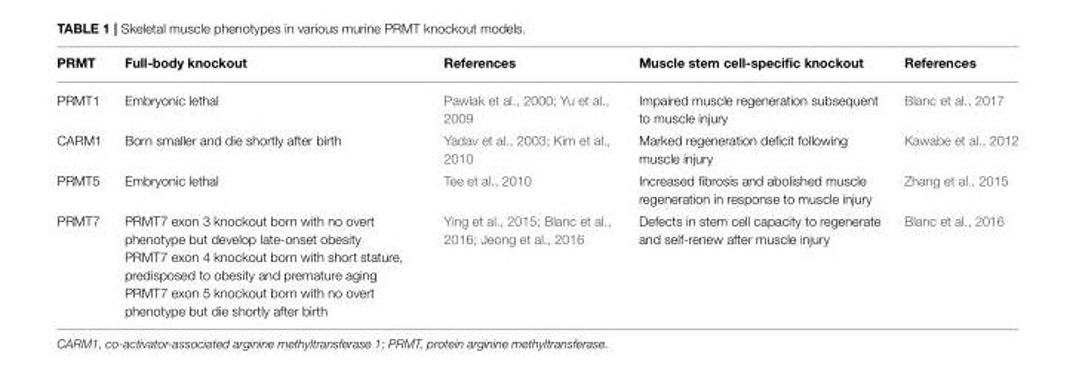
<table><thead><tr><td>PRMT</td><td>Full-body knockout</td><td>References</td><td>Muscle stem cell-specific knockout</td><td>References</td></tr></thead><tbody><tr><td>PRMT1</td><td>Embryonic lethal</td><td>Pawlak et al., 2000; Yu et al., 2009</td><td>Impaired muscle regeneration subsequent to muscle injury</td><td>Blanc et al., 2017</td></tr><tr><td>CARM1</td><td>Born smaller and die shortly after birth</td><td>Yadav et al., 2003; Kim et al., 2010</td><td>Marked regeneration deficit following muscle injury</td><td>Kawabe et al., 2012</td></tr><tr><td>PRMT5</td><td>Embryonic lethal</td><td>Tee et al., 2010</td><td>Increased fibrosis and abolished muscle regeneration in response to muscle injury</td><td>Zhang et al., 2015</td></tr><tr><td>PRMT7</td><td>PRMT7 exon 3 knockout born with no overt phenotype but develop late-onset obesity PRMT7 exon 4 knockout born with short stature, predisposed to obesity and premature aging PRMT7 exon 5 knockout born with no overt phenotype but die shortly after birth</td><td>Ying et al., 2015; Blanc et al., 2016; Jeong et al., 2016</td><td>Defects in stem cell capacity to regenerate and self-renew after muscle injury</td><td>Blanc et al., 2016</td></tr></tbody></table>